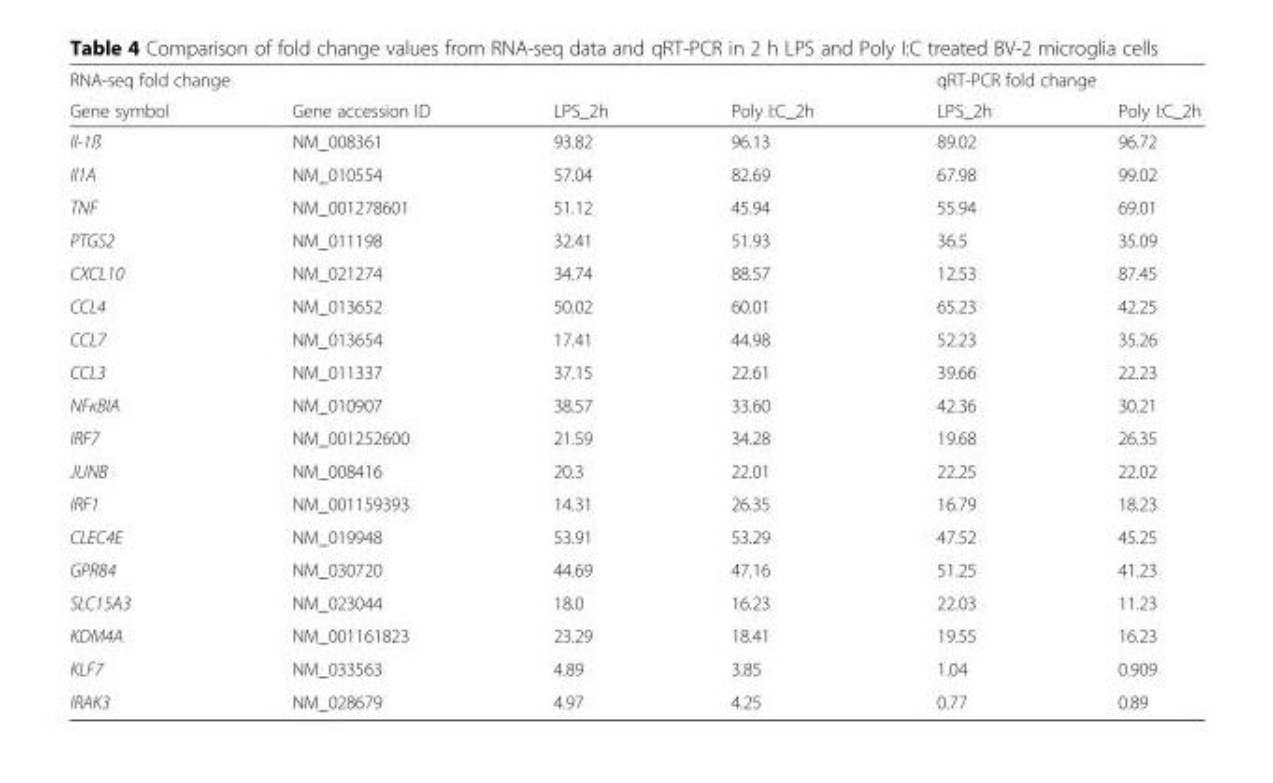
<table><thead><tr><td colspan="4">RNA-seq fold change</td><td colspan="2">qRT-PCR fold change</td></tr><tr><td>Gene symbol</td><td>Gene accession ID</td><td>LPS_2h</td><td>Poly I:C_2h</td><td>LPS_2h</td><td>Poly I:C_2h</td></tr></thead><tbody><tr><td>Il-1ß</td><td>NM_008361</td><td>93.82</td><td>96.13</td><td>89.02</td><td>96.72</td></tr><tr><td>Il1A</td><td>NM_010554</td><td>57.04</td><td>82.69</td><td>67.98</td><td>99.02</td></tr><tr><td>TNF</td><td>NM_001278601</td><td>51.12</td><td>45.94</td><td>55.94</td><td>69.01</td></tr><tr><td>PTGS2</td><td>NM_011198</td><td>32.41</td><td>51.93</td><td>36.5</td><td>35.09</td></tr><tr><td>CXCL10</td><td>NM_021274</td><td>34.74</td><td>88.57</td><td>12.53</td><td>87.45</td></tr><tr><td>CCL4</td><td>NM_013652</td><td>50.02</td><td>60.01</td><td>65.23</td><td>42.25</td></tr><tr><td>CCL7</td><td>NM_013654</td><td>17.41</td><td>44.98</td><td>52.23</td><td>35.26</td></tr><tr><td>CCL3</td><td>NM_011337</td><td>37.15</td><td>22.61</td><td>39.66</td><td>22.23</td></tr><tr><td>NFκBIA</td><td>NM_010907</td><td>38.57</td><td>33.60</td><td>42.36</td><td>30.21</td></tr><tr><td>IRF7</td><td>NM_001252600</td><td>21.59</td><td>34.28</td><td>19.68</td><td>26.35</td></tr><tr><td>JUNB</td><td>NM_008416</td><td>20.3</td><td>22.01</td><td>22.25</td><td>22.02</td></tr><tr><td>IRF1</td><td>NM_001159393</td><td>14.31</td><td>26.35</td><td>16.79</td><td>18.23</td></tr><tr><td>CLEC4E</td><td>NM_019948</td><td>53.91</td><td>53.29</td><td>47.52</td><td>45.25</td></tr><tr><td>GPR84</td><td>NM_030720</td><td>44.69</td><td>47.16</td><td>51.25</td><td>41.23</td></tr><tr><td>SLC15A3</td><td>NM_023044</td><td>18.0</td><td>16.23</td><td>22.03</td><td>11.23</td></tr><tr><td>KDM4A</td><td>NM_001161823</td><td>23.29</td><td>18.41</td><td>19.55</td><td>16.23</td></tr><tr><td>KLF7</td><td>NM_033563</td><td>4.89</td><td>3.85</td><td>1.04</td><td>0.909</td></tr><tr><td>IRAK3</td><td>NM_028679</td><td>4.97</td><td>4.25</td><td>0.77</td><td>0.89</td></tr></tbody></table>